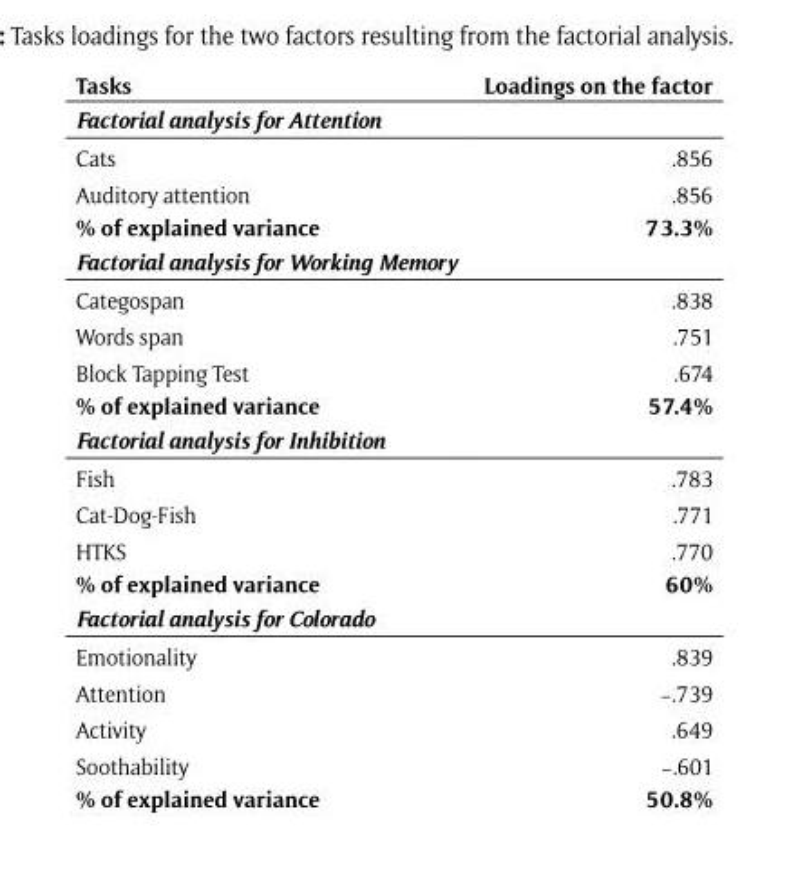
<table><thead><tr><td>Tasks</td><td>Loadings on the factor</td></tr></thead><tbody><tr><td colspan="2">Factorial analysis for Attention</td></tr><tr><td>Cats</td><td>.856</td></tr><tr><td>Auditory attention</td><td>.856</td></tr><tr><td>% of explained variance</td><td>73.3%</td></tr><tr><td colspan="2">Factorial analysis for Working Memory</td></tr><tr><td>Categospan</td><td>.838</td></tr><tr><td>Words span</td><td>.751</td></tr><tr><td>Block Tapping Test</td><td>.674</td></tr><tr><td>% of explained variance</td><td>57.4%</td></tr><tr><td colspan="2">Factorial analysis for Inhibition</td></tr><tr><td>Fish</td><td>.783</td></tr><tr><td>Cat-Dog-Fish</td><td>.771</td></tr><tr><td>HTKS</td><td>.770</td></tr><tr><td>% of explained variance</td><td>60%</td></tr><tr><td colspan="2">Factorial analysis for Colorado</td></tr><tr><td>Emotionality</td><td>.839</td></tr><tr><td>Attention</td><td>−.739</td></tr><tr><td>Activity</td><td>.649</td></tr><tr><td>Soothability</td><td>−.601</td></tr><tr><td>% of explained variance</td><td>50.8%</td></tr></tbody></table>